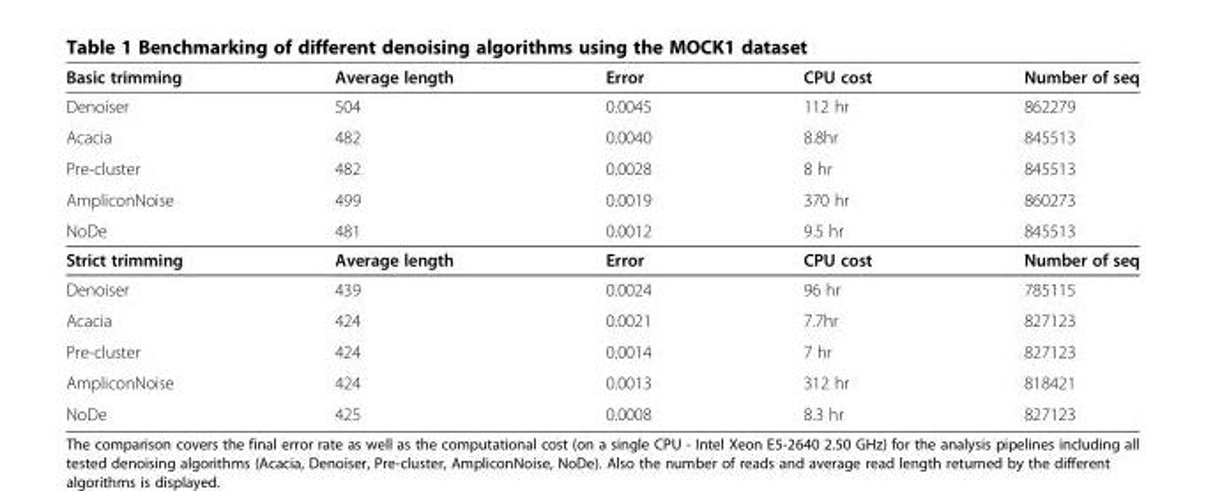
<table><thead><tr><td>Basic trimming</td><td>Average length</td><td>Error</td><td>CPU cost</td><td>Number of seq</td></tr></thead><tbody><tr><td>Denoiser</td><td>504</td><td>0.0045</td><td>112 hr</td><td>862279</td></tr><tr><td>Acacia</td><td>482</td><td>0.0040</td><td>8.8hr</td><td>845513</td></tr><tr><td>Pre-cluster</td><td>482</td><td>0.0028</td><td>8 hr</td><td>845513</td></tr><tr><td>AmpliconNoise</td><td>499</td><td>0.0019</td><td>370 hr</td><td>860273</td></tr><tr><td>NoDe</td><td>481</td><td>0.0012</td><td>9.5 hr</td><td>845513</td></tr><tr><td>Strict trimming</td><td>Average length</td><td>Error</td><td>CPU cost</td><td>Number of seq</td></tr><tr><td>Denoiser</td><td>439</td><td>0.0024</td><td>96 hr</td><td>785115</td></tr><tr><td>Acacia</td><td>424</td><td>0.0021</td><td>7.7hr</td><td>827123</td></tr><tr><td>Pre-cluster</td><td>424</td><td>0.0014</td><td>7 hr</td><td>827123</td></tr><tr><td>AmpliconNoise</td><td>424</td><td>0.0013</td><td>312 hr</td><td>818421</td></tr><tr><td>NoDe</td><td>425</td><td>0.0008</td><td>8.3 hr</td><td>827123</td></tr></tbody></table>